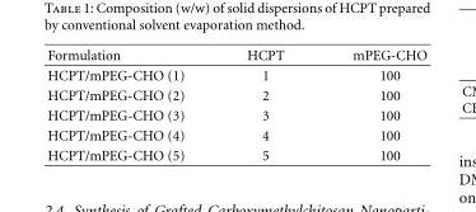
<table><thead><tr><td>Formulation</td><td>HCPT</td><td>mPEG-CHO</td></tr></thead><tbody><tr><td>HCPT/mPEG-CHO (1)</td><td>1</td><td>100</td></tr><tr><td>HCPT/mPEG-CHO (2)</td><td>2</td><td>100</td></tr><tr><td>HCPT/mPEG-CHO (3)</td><td>3</td><td>100</td></tr><tr><td>HCPT/mPEG-CHO (4)</td><td>4</td><td>100</td></tr><tr><td>HCPT/mPEG-CHO (5)</td><td>5</td><td>100</td></tr></tbody></table>